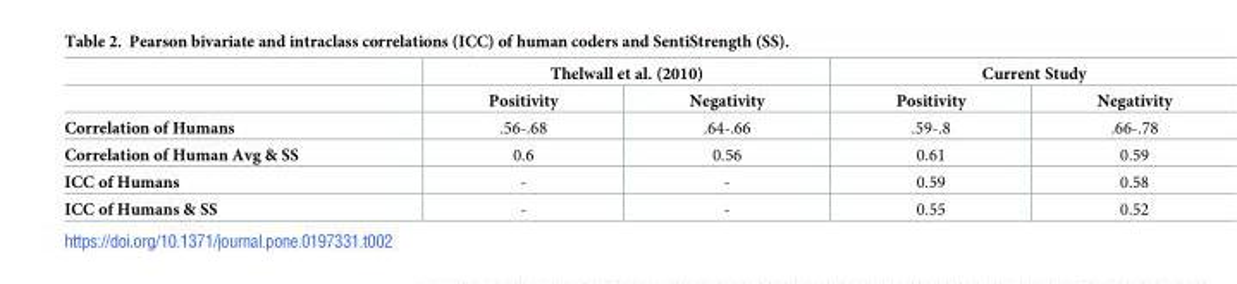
<table><thead><tr><td rowspan="2"></td><td colspan="2">Thelwall et al. (2010)</td><td colspan="2">Current Study</td></tr><tr><td>Positivity</td><td>Negativity</td><td>Positivity</td><td>Negativity</td></tr></thead><tbody><tr><td>Correlation of Humans</td><td>.56-.68</td><td>.64-.66</td><td>.59-.8</td><td>.66-.78</td></tr><tr><td>Correlation of Human Avg &amp; SS</td><td>0.6</td><td>0.56</td><td>0.61</td><td>0.59</td></tr><tr><td>ICC of Humans</td><td>-</td><td>-</td><td>0.59</td><td>0.58</td></tr><tr><td>ICC of Humans &amp; SS</td><td>-</td><td>-</td><td>0.55</td><td>0.52</td></tr></tbody></table>